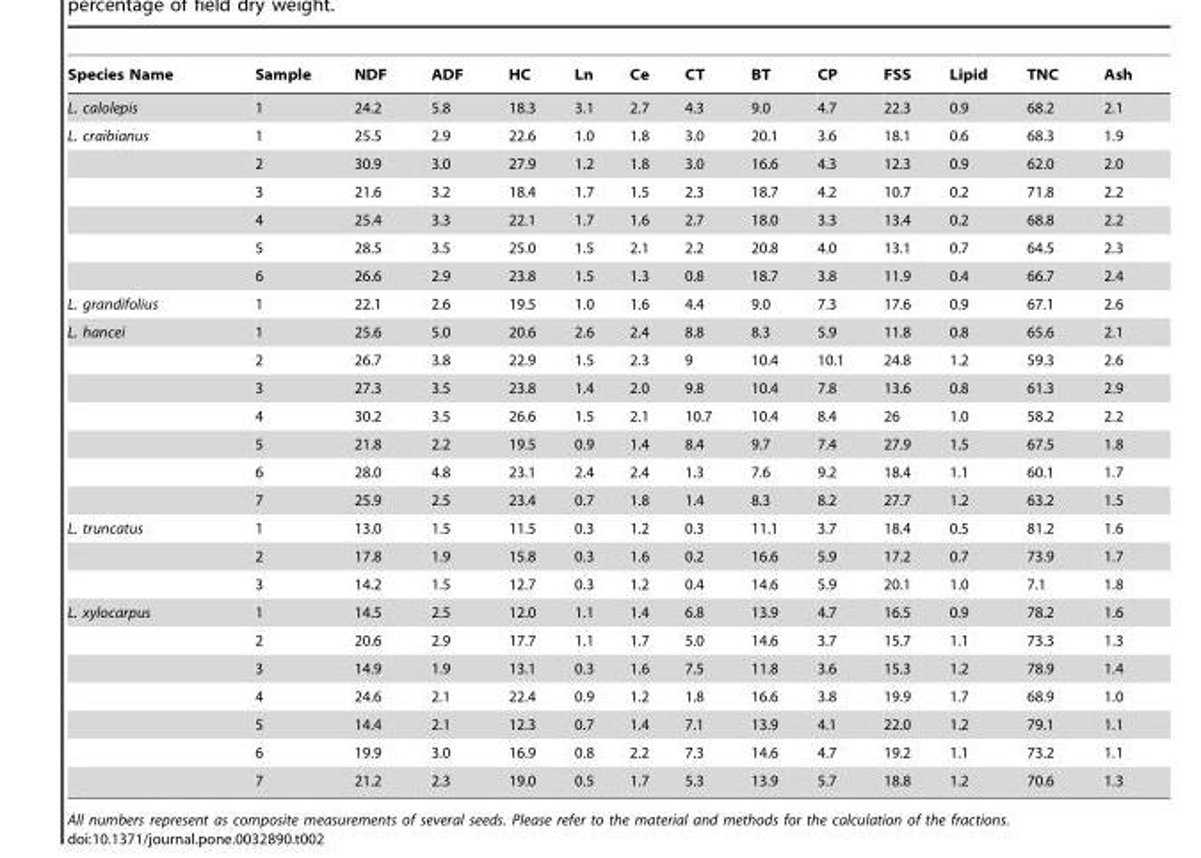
<table><thead><tr><td>Species Name</td><td>Sample</td><td>NDF</td><td>ADF</td><td>HC</td><td>Ln</td><td>Ce</td><td>CT</td><td>BT</td><td>CP</td><td>FSS</td><td>Lipid</td><td>TNC</td><td>Ash</td></tr></thead><tbody><tr><td>L. calolepis</td><td>1</td><td>24.2</td><td>5.8</td><td>18.3</td><td>3.1</td><td>2.7</td><td>4.3</td><td>9.0</td><td>4.7</td><td>22.3</td><td>0.9</td><td>68.2</td><td>2.1</td></tr><tr><td rowspan="6">L. craibianus</td><td>1</td><td>25.5</td><td>2.9</td><td>22.6</td><td>1.0</td><td>1.8</td><td>3.0</td><td>20.1</td><td>3.6</td><td>18.1</td><td>0.6</td><td>68.3</td><td>1.9</td></tr><tr><td>2</td><td>30.9</td><td>3.0</td><td>27.9</td><td>1.2</td><td>1.8</td><td>3.0</td><td>16.6</td><td>4.3</td><td>12.3</td><td>0.9</td><td>62.0</td><td>2.0</td></tr><tr><td>3</td><td>21.6</td><td>3.2</td><td>18.4</td><td>1.7</td><td>1.5</td><td>2.3</td><td>18.7</td><td>4.2</td><td>10.7</td><td>0.2</td><td>71.8</td><td>2.2</td></tr><tr><td>4</td><td>25.4</td><td>3.3</td><td>22.1</td><td>1.7</td><td>1.6</td><td>2.7</td><td>18.0</td><td>3.3</td><td>13.4</td><td>0.2</td><td>68.8</td><td>2.2</td></tr><tr><td>5</td><td>28.5</td><td>3.5</td><td>25.0</td><td>1.5</td><td>2.1</td><td>2.2</td><td>20.8</td><td>4.0</td><td>13.1</td><td>0.7</td><td>64.5</td><td>2.3</td></tr><tr><td>6</td><td>26.6</td><td>2.9</td><td>23.8</td><td>1.5</td><td>1.3</td><td>0.8</td><td>18.7</td><td>3.8</td><td>11.9</td><td>0.4</td><td>66.7</td><td>2.4</td></tr><tr><td>L. grandifolius</td><td>1</td><td>22.1</td><td>2.6</td><td>19.5</td><td>1.0</td><td>1.6</td><td>4.4</td><td>9.0</td><td>7.3</td><td>17.6</td><td>0.9</td><td>67.1</td><td>2.6</td></tr><tr><td rowspan="7">L. hancei</td><td>1</td><td>25.6</td><td>5.0</td><td>20.6</td><td>2.6</td><td>2.4</td><td>8.8</td><td>8.3</td><td>5.9</td><td>11.8</td><td>0.8</td><td>65.6</td><td>2.1</td></tr><tr><td>2</td><td>26.7</td><td>3.8</td><td>22.9</td><td>1.5</td><td>2.3</td><td>9</td><td>10.4</td><td>10.1</td><td>24.8</td><td>1.2</td><td>59.3</td><td>2.6</td></tr><tr><td>3</td><td>27.3</td><td>3.5</td><td>23.8</td><td>1.4</td><td>2.0</td><td>9.8</td><td>10.4</td><td>7.8</td><td>13.6</td><td>0.8</td><td>61.3</td><td>2.9</td></tr><tr><td>4</td><td>30.2</td><td>3.5</td><td>26.6</td><td>1.5</td><td>2.1</td><td>10.7</td><td>10.4</td><td>8.4</td><td>26</td><td>1.0</td><td>58.2</td><td>2.2</td></tr><tr><td>5</td><td>21.8</td><td>2.2</td><td>19.5</td><td>0.9</td><td>1.4</td><td>8.4</td><td>9.7</td><td>7.4</td><td>27.9</td><td>1.5</td><td>67.5</td><td>1.8</td></tr><tr><td>6</td><td>28.0</td><td>4.8</td><td>23.1</td><td>2.4</td><td>2.4</td><td>1.3</td><td>7.6</td><td>9.2</td><td>18.4</td><td>1.1</td><td>60.1</td><td>1.7</td></tr><tr><td>7</td><td>25.9</td><td>2.5</td><td>23.4</td><td>0.7</td><td>1.8</td><td>1.4</td><td>8.3</td><td>8.2</td><td>27.7</td><td>1.2</td><td>63.2</td><td>1.5</td></tr><tr><td rowspan="3">L. truncatus</td><td>1</td><td>13.0</td><td>1.5</td><td>11.5</td><td>0.3</td><td>1.2</td><td>0.3</td><td>11.1</td><td>3.7</td><td>18.4</td><td>0.5</td><td>81.2</td><td>1.6</td></tr><tr><td>2</td><td>17.8</td><td>1.9</td><td>15.8</td><td>0.3</td><td>1.6</td><td>0.2</td><td>16.6</td><td>5.9</td><td>17.2</td><td>0.7</td><td>73.9</td><td>1.7</td></tr><tr><td>3</td><td>14.2</td><td>1.5</td><td>12.7</td><td>0.3</td><td>1.2</td><td>0.4</td><td>14.6</td><td>5.9</td><td>20.1</td><td>1.0</td><td>7.1</td><td>1.8</td></tr><tr><td rowspan="7">L. xylocarpus</td><td>1</td><td>14.5</td><td>2.5</td><td>12.0</td><td>1.1</td><td>1.4</td><td>6.8</td><td>13.9</td><td>4.7</td><td>16.5</td><td>0.9</td><td>78.2</td><td>1.6</td></tr><tr><td>2</td><td>20.6</td><td>2.9</td><td>17.7</td><td>1.1</td><td>1.7</td><td>5.0</td><td>14.6</td><td>3.7</td><td>15.7</td><td>1.1</td><td>73.3</td><td>1.3</td></tr><tr><td>3</td><td>14.9</td><td>1.9</td><td>13.1</td><td>0.3</td><td>1.6</td><td>7.5</td><td>11.8</td><td>3.6</td><td>15.3</td><td>1.2</td><td>78.9</td><td>1.4</td></tr><tr><td>4</td><td>24.6</td><td>2.1</td><td>22.4</td><td>0.9</td><td>1.2</td><td>1.8</td><td>16.6</td><td>3.8</td><td>19.9</td><td>1.7</td><td>68.9</td><td>1.0</td></tr><tr><td>5</td><td>14.4</td><td>2.1</td><td>12.3</td><td>0.7</td><td>1.4</td><td>7.1</td><td>13.9</td><td>4.1</td><td>22.0</td><td>1.2</td><td>79.1</td><td>1.1</td></tr><tr><td>6</td><td>19.9</td><td>3.0</td><td>16.9</td><td>0.8</td><td>2.2</td><td>7.3</td><td>14.6</td><td>4.7</td><td>19.2</td><td>1.1</td><td>73.2</td><td>1.1</td></tr><tr><td>7</td><td>21.2</td><td>2.3</td><td>19.0</td><td>0.5</td><td>1.7</td><td>5.3</td><td>13.9</td><td>5.7</td><td>18.8</td><td>1.2</td><td>70.6</td><td>1.3</td></tr></tbody></table>